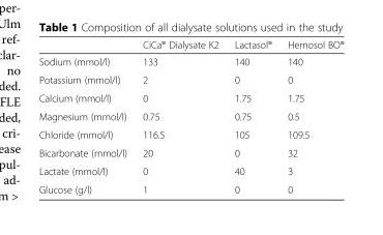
<table><thead><tr><td></td><td>CiCa® Dialysate K2</td><td>Lactasol®</td><td>Hemosol BO®</td></tr></thead><tbody><tr><td>Sodium (mmol/l)</td><td>133</td><td>140</td><td>140</td></tr><tr><td>Potassium (mmol/l)</td><td>2</td><td>0</td><td>0</td></tr><tr><td>Calcium (mmol/l)</td><td>0</td><td>1.75</td><td>1.75</td></tr><tr><td>Magnesium (mmol/l)</td><td>0.75</td><td>0.75</td><td>0.5</td></tr><tr><td>Chloride (mmol/l)</td><td>116.5</td><td>105</td><td>109.5</td></tr><tr><td>Bicarbonate (mmol/l)</td><td>20</td><td>0</td><td>32</td></tr><tr><td>Lactate (mmol/l)</td><td>0</td><td>40</td><td>3</td></tr><tr><td>Glucose (g/l)</td><td>1</td><td>0</td><td>0</td></tr></tbody></table>